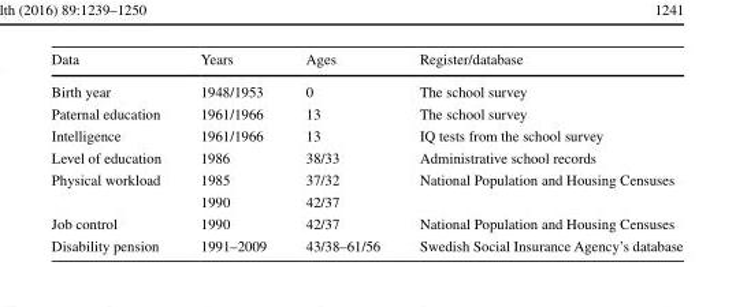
<table><thead><tr><td>Data</td><td>Years</td><td>Ages</td><td>Register/database</td></tr></thead><tbody><tr><td>Birth year</td><td>1948/1953</td><td>0</td><td>The school survey</td></tr><tr><td>Paternal education</td><td>1961/1966</td><td>13</td><td>The school survey</td></tr><tr><td>Intelligence</td><td>1961/1966</td><td>13</td><td>IQ tests from the school survey</td></tr><tr><td>Level of education</td><td>1986</td><td>38/33</td><td>Administrative school records</td></tr><tr><td rowspan="2">Physical workload</td><td>1985</td><td>37/32</td><td rowspan="2">National Population and Housing Censuses</td></tr><tr><td>1990</td><td>42/37</td></tr><tr><td>Job control</td><td>1990</td><td>42/37</td><td>National Population and Housing Censuses</td></tr><tr><td>Disability pension</td><td>1991–2009</td><td>43/38–61/56</td><td>Swedish Social Insurance Agency’s database</td></tr></tbody></table>